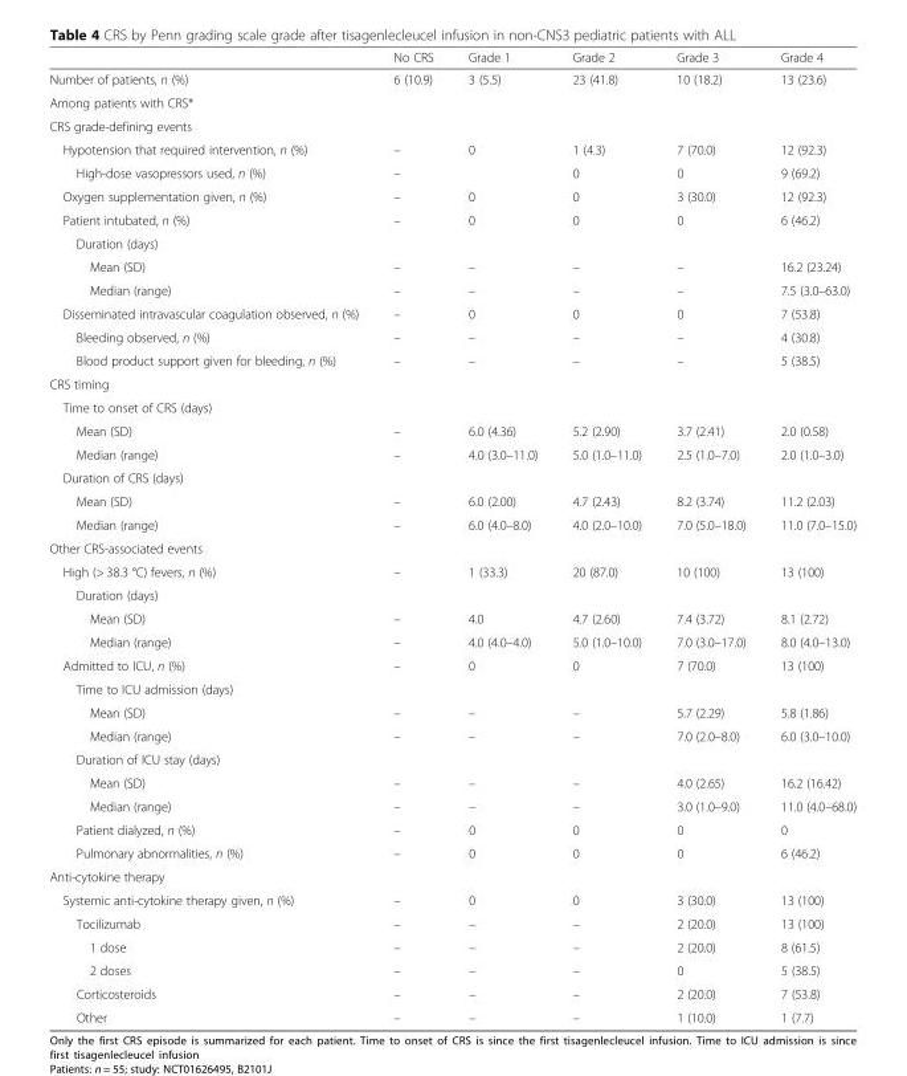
<table><thead><tr><td></td><td>No CRS</td><td>Grade 1</td><td>Grade 2</td><td>Grade 3</td><td>Grade 4</td></tr></thead><tbody><tr><td>Number of patients, n (%)</td><td>6 (10.9)</td><td>3 (5.5)</td><td>23 (41.8)</td><td>10 (18.2)</td><td>13 (23.6)</td></tr><tr><td colspan="6">Among patients with CRS*</td></tr><tr><td colspan="6">CRS grade-defining events</td></tr><tr><td>Hypotension that required intervention, n (%)</td><td>–</td><td>0</td><td>1 (4.3)</td><td>7 (70.0)</td><td>12 (92.3)</td></tr><tr><td>High-dose vasopressors used, n (%)</td><td>–</td><td></td><td>0</td><td>0</td><td>9 (69.2)</td></tr><tr><td>Oxygen supplementation given, n (%)</td><td>–</td><td>0</td><td>0</td><td>3 (30.0)</td><td>12 (92.3)</td></tr><tr><td>Patient intubated, n (%)</td><td>–</td><td>0</td><td>0</td><td>0</td><td>6 (46.2)</td></tr><tr><td colspan="6">Duration (days)</td></tr><tr><td>Mean (SD)</td><td>–</td><td>–</td><td>–</td><td>–</td><td>16.2 (23.24)</td></tr><tr><td>Median (range)</td><td>–</td><td>–</td><td>–</td><td>–</td><td>7.5 (3.0–63.0)</td></tr><tr><td>Disseminated intravascular coagulation observed, n (%)</td><td>–</td><td>0</td><td>0</td><td>0</td><td>7 (53.8)</td></tr><tr><td>Bleeding observed, n (%)</td><td>–</td><td>–</td><td>–</td><td>–</td><td>4 (30.8)</td></tr><tr><td>Blood product support given for bleeding, n (%)</td><td>–</td><td>–</td><td>–</td><td>–</td><td>5 (38.5)</td></tr><tr><td colspan="6">CRS timing</td></tr><tr><td colspan="6">Time to onset of CRS (days)</td></tr><tr><td>Mean (SD)</td><td>–</td><td>6.0 (4.36)</td><td>5.2 (2.90)</td><td>3.7 (2.41)</td><td>2.0 (0.58)</td></tr><tr><td>Median (range)</td><td>–</td><td>4.0 (3.0–11.0)</td><td>5.0 (1.0–11.0)</td><td>2.5 (1.0–7.0)</td><td>2.0 (1.0–3.0)</td></tr><tr><td colspan="6">Duration of CRS (days)</td></tr><tr><td>Mean (SD)</td><td>–</td><td>6.0 (2.00)</td><td>4.7 (2.43)</td><td>8.2 (3.74)</td><td>11.2 (2.03)</td></tr><tr><td>Median (range)</td><td>–</td><td>6.0 (4.0–8.0)</td><td>4.0 (2.0–10.0)</td><td>7.0 (5.0–18.0)</td><td>11.0 (7.0–15.0)</td></tr><tr><td colspan="6">Other CRS-associated events</td></tr><tr><td>High (&gt; 38.3 °C) fevers, n (%)</td><td>–</td><td>1 (33.3)</td><td>20 (87.0)</td><td>10 (100)</td><td>13 (100)</td></tr><tr><td colspan="6">Duration (days)</td></tr><tr><td>Mean (SD)</td><td>–</td><td>4.0</td><td>4.7 (2.60)</td><td>7.4 (3.72)</td><td>8.1 (2.72)</td></tr><tr><td>Median (range)</td><td>–</td><td>4.0 (4.0–4.0)</td><td>5.0 (1.0–10.0)</td><td>7.0 (3.0–17.0)</td><td>8.0 (4.0–13.0)</td></tr><tr><td>Admitted to ICU, n (%)</td><td>–</td><td>0</td><td>0</td><td>7 (70.0)</td><td>13 (100)</td></tr><tr><td colspan="6">Time to ICU admission (days)</td></tr><tr><td>Mean (SD)</td><td>–</td><td>–</td><td>–</td><td>5.7 (2.29)</td><td>5.8 (1.86)</td></tr><tr><td>Median (range)</td><td>–</td><td>–</td><td>–</td><td>7.0 (2.0–8.0)</td><td>6.0 (3.0–10.0)</td></tr><tr><td colspan="6">Duration of ICU stay (days)</td></tr><tr><td>Mean (SD)</td><td>–</td><td>–</td><td>–</td><td>4.0 (2.65)</td><td>16.2 (16.42)</td></tr><tr><td>Median (range)</td><td>–</td><td>–</td><td>–</td><td>3.0 (1.0–9.0)</td><td>11.0 (4.0–68.0)</td></tr><tr><td>Patient dialyzed, n (%)</td><td>–</td><td>0</td><td>0</td><td>0</td><td>0</td></tr><tr><td>Pulmonary abnormalities, n (%)</td><td>–</td><td>0</td><td>0</td><td>0</td><td>6 (46.2)</td></tr><tr><td colspan="6">Anti-cytokine therapy</td></tr><tr><td>Systemic anti-cytokine therapy given, n (%)</td><td>–</td><td>0</td><td>0</td><td>3 (30.0)</td><td>13 (100)</td></tr><tr><td>Tocilizumab</td><td>–</td><td>–</td><td>–</td><td>2 (20.0)</td><td>13 (100)</td></tr><tr><td>1 dose</td><td>–</td><td>–</td><td>–</td><td>2 (20.0)</td><td>8 (61.5)</td></tr><tr><td>2 doses</td><td>–</td><td>–</td><td>–</td><td>0</td><td>5 (38.5)</td></tr><tr><td>Corticosteroids</td><td>–</td><td>–</td><td>–</td><td>2 (20.0)</td><td>7 (53.8)</td></tr><tr><td>Other</td><td>–</td><td>–</td><td>–</td><td>1 (10.0)</td><td>1 (7.7)</td></tr></tbody></table>